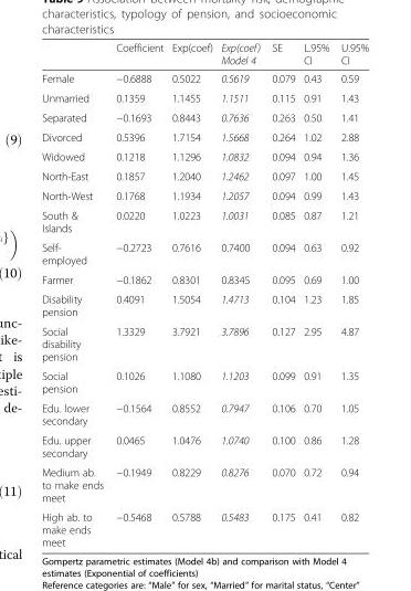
<table><thead><tr><td></td><td>Coefficient</td><td>Exp(coef)</td><td>Exp(coef) Model 4</td><td>SE</td><td>L.95% CI</td><td>U.95% CI</td></tr></thead><tbody><tr><td>Female</td><td>−0.6888</td><td>0.5022</td><td>0.5619</td><td>0.079</td><td>0.43</td><td>0.59</td></tr><tr><td>Unmarried</td><td>0.1359</td><td>1.1455</td><td>1.1511</td><td>0.115</td><td>0.91</td><td>1.43</td></tr><tr><td>Separated</td><td>−0.1693</td><td>0.8443</td><td>0.7636</td><td>0.263</td><td>0.50</td><td>1.41</td></tr><tr><td>Divorced</td><td>0.5396</td><td>1.7154</td><td>1.5668</td><td>0.264</td><td>1.02</td><td>2.88</td></tr><tr><td>Widowed</td><td>0.1218</td><td>1.1296</td><td>1.0832</td><td>0.094</td><td>0.94</td><td>1.36</td></tr><tr><td>North-East</td><td>0.1857</td><td>1.2040</td><td>1.2462</td><td>0.097</td><td>1.00</td><td>1.45</td></tr><tr><td>North-West</td><td>0.1768</td><td>1.1934</td><td>1.2057</td><td>0.094</td><td>0.99</td><td>1.43</td></tr><tr><td>South &amp; Islands</td><td>0.0220</td><td>1.0223</td><td>1.0031</td><td>0.085</td><td>0.87</td><td>1.21</td></tr><tr><td>Self- employed</td><td>−0.2723</td><td>0.7616</td><td>0.7400</td><td>0.094</td><td>0.63</td><td>0.92</td></tr><tr><td>Farmer</td><td>−0.1862</td><td>0.8301</td><td>0.8345</td><td>0.095</td><td>0.69</td><td>1.00</td></tr><tr><td>Disability pension</td><td>0.4091</td><td>1.5054</td><td>1.4713</td><td>0.104</td><td>1.23</td><td>1.85</td></tr><tr><td>Social disability pension</td><td>1.3329</td><td>3.7921</td><td>3.7896</td><td>0.127</td><td>2.95</td><td>4.87</td></tr><tr><td>Social pension</td><td>0.1026</td><td>1.1080</td><td>1.1203</td><td>0.099</td><td>0.91</td><td>1.35</td></tr><tr><td>Edu. lower secondary</td><td>−0.1564</td><td>0.8552</td><td>0.7947</td><td>0.106</td><td>0.70</td><td>1.05</td></tr><tr><td>Edu. upper secondary</td><td>0.0465</td><td>1.0476</td><td>1.0740</td><td>0.100</td><td>0.86</td><td>1.28</td></tr><tr><td>Medium ab. to make ends meet</td><td>−0.1949</td><td>0.8229</td><td>0.8276</td><td>0.070</td><td>0.72</td><td>0.94</td></tr><tr><td>High ab. to make ends meet</td><td>−0.5468</td><td>0.5788</td><td>0.5483</td><td>0.175</td><td>0.41</td><td>0.82</td></tr></tbody></table>